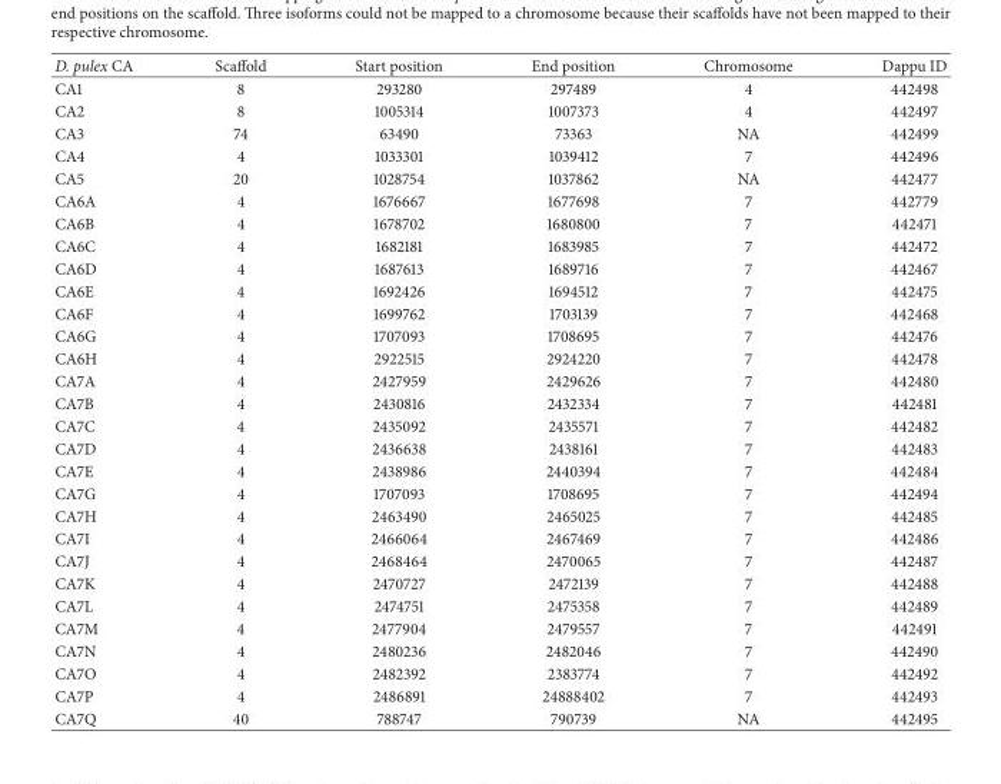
<table><thead><tr><td>D. pulex CA</td><td>Scaffold</td><td>Start position</td><td>End position</td><td>Chromosome</td><td>Dappu ID</td></tr></thead><tbody><tr><td>CA1</td><td>8</td><td>293280</td><td>297489</td><td>4</td><td>442498</td></tr><tr><td>CA2</td><td>8</td><td>1005314</td><td>1007373</td><td>4</td><td>442497</td></tr><tr><td>CA3</td><td>74</td><td>63490</td><td>73363</td><td>NA</td><td>442499</td></tr><tr><td>CA4</td><td>4</td><td>1033301</td><td>1039412</td><td>7</td><td>442496</td></tr><tr><td>CA5</td><td>20</td><td>1028754</td><td>1037862</td><td>NA</td><td>442477</td></tr><tr><td>CA6A</td><td>4</td><td>1676667</td><td>1677698</td><td>7</td><td>442779</td></tr><tr><td>CA6B</td><td>4</td><td>1678702</td><td>1680800</td><td>7</td><td>442471</td></tr><tr><td>CA6C</td><td>4</td><td>1682181</td><td>1683985</td><td>7</td><td>442472</td></tr><tr><td>CA6D</td><td>4</td><td>1687613</td><td>1689716</td><td>7</td><td>442467</td></tr><tr><td>CA6E</td><td>4</td><td>1692426</td><td>1694512</td><td>7</td><td>442475</td></tr><tr><td>CA6F</td><td>4</td><td>1699762</td><td>1703139</td><td>7</td><td>442468</td></tr><tr><td>CA6G</td><td>4</td><td>1707093</td><td>1708695</td><td>7</td><td>442476</td></tr><tr><td>CA6H</td><td>4</td><td>2922515</td><td>2924220</td><td>7</td><td>442478</td></tr><tr><td>CA7A</td><td>4</td><td>2427959</td><td>2429626</td><td>7</td><td>442480</td></tr><tr><td>CA7B</td><td>4</td><td>2430816</td><td>2432334</td><td>7</td><td>442481</td></tr><tr><td>CA7C</td><td>4</td><td>2435092</td><td>2435571</td><td>7</td><td>442482</td></tr><tr><td>CA7D</td><td>4</td><td>2436638</td><td>2438161</td><td>7</td><td>442483</td></tr><tr><td>CA7E</td><td>4</td><td>2438986</td><td>2440394</td><td>7</td><td>442484</td></tr><tr><td>CA7G</td><td>4</td><td>1707093</td><td>1708695</td><td>7</td><td>442494</td></tr><tr><td>CA7H</td><td>4</td><td>2463490</td><td>2465025</td><td>7</td><td>442485</td></tr><tr><td>CA7I</td><td>4</td><td>2466064</td><td>2467469</td><td>7</td><td>442486</td></tr><tr><td>CA7J</td><td>4</td><td>2468464</td><td>2470065</td><td>7</td><td>442487</td></tr><tr><td>CA7K</td><td>4</td><td>2470727</td><td>2472139</td><td>7</td><td>442488</td></tr><tr><td>CA7L</td><td>4</td><td>2474751</td><td>2475358</td><td>7</td><td>442489</td></tr><tr><td>CA7M</td><td>4</td><td>2477904</td><td>2479557</td><td>7</td><td>442491</td></tr><tr><td>CA7N</td><td>4</td><td>2480236</td><td>2482046</td><td>7</td><td>442490</td></tr><tr><td>CA7O</td><td>4</td><td>2482392</td><td>2383774</td><td>7</td><td>442492</td></tr><tr><td>CA7P</td><td>4</td><td>2486891</td><td>24888402</td><td>7</td><td>442493</td></tr><tr><td>CA7Q</td><td>40</td><td>788747</td><td>790739</td><td>NA</td><td>442495</td></tr></tbody></table>